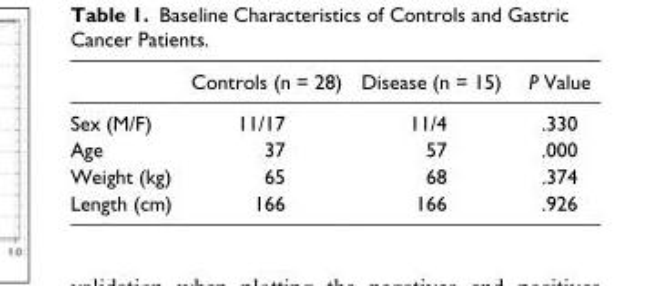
<table><thead><tr><td></td><td>Controls (n = 28)</td><td>Disease (n = 15)</td><td>P Value</td></tr></thead><tbody><tr><td>Sex (M/F)</td><td>11/17</td><td>11/4</td><td>.330</td></tr><tr><td>Age</td><td>37</td><td>57</td><td>.000</td></tr><tr><td>Weight (kg)</td><td>65</td><td>68</td><td>.374</td></tr><tr><td>Length (cm)</td><td>166</td><td>166</td><td>.926</td></tr></tbody></table>